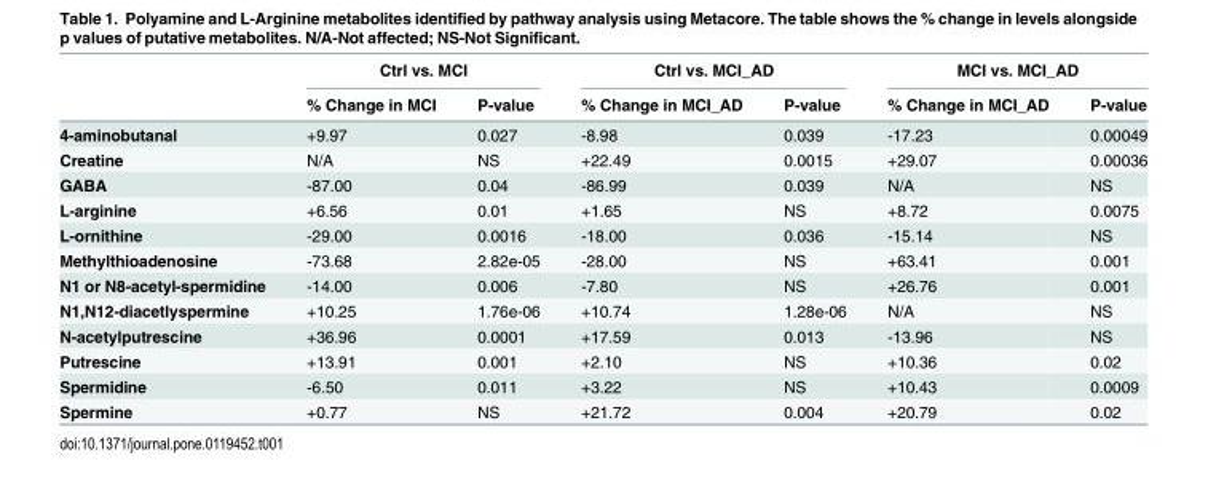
<table><thead><tr><td rowspan="2"></td><td colspan="2">Ctrl vs. MCI</td><td colspan="2">Ctrl vs. MCI_AD</td><td colspan="2">MCI vs. MCI_AD</td></tr><tr><td>% Change in MCI</td><td>P-value</td><td>% Change in MCI_AD</td><td>P-value</td><td>% Change in MCI_AD</td><td>P-value</td></tr></thead><tbody><tr><td>4-aminobutanal</td><td>+9.97</td><td>0.027</td><td>-8.98</td><td>0.039</td><td>-17.23</td><td>0.00049</td></tr><tr><td>Creatine</td><td>N/A</td><td>NS</td><td>+22.49</td><td>0.0015</td><td>+29.07</td><td>0.00036</td></tr><tr><td>GABA</td><td>-87.00</td><td>0.04</td><td>-86.99</td><td>0.039</td><td>N/A</td><td>NS</td></tr><tr><td>L-arginine</td><td>+6.56</td><td>0.01</td><td>+1.65</td><td>NS</td><td>+8.72</td><td>0.0075</td></tr><tr><td>L-ornithine</td><td>-29.00</td><td>0.0016</td><td>-18.00</td><td>0.036</td><td>-15.14</td><td>NS</td></tr><tr><td>Methylthioadenosine</td><td>-73.68</td><td>2.82e-05</td><td>-28.00</td><td>NS</td><td>+63.41</td><td>0.001</td></tr><tr><td>N1 or N8-acetyl-spermidine</td><td>-14.00</td><td>0.006</td><td>-7.80</td><td>NS</td><td>+26.76</td><td>0.001</td></tr><tr><td>N1,N12-diacetlyspermine</td><td>+10.25</td><td>1.76e-06</td><td>+10.74</td><td>1.28e-06</td><td>N/A</td><td>NS</td></tr><tr><td>N-acetylputrescine</td><td>+36.96</td><td>0.0001</td><td>+17.59</td><td>0.013</td><td>-13.96</td><td>NS</td></tr><tr><td>Putrescine</td><td>+13.91</td><td>0.001</td><td>+2.10</td><td>NS</td><td>+10.36</td><td>0.02</td></tr><tr><td>Spermidine</td><td>-6.50</td><td>0.011</td><td>+3.22</td><td>NS</td><td>+10.43</td><td>0.0009</td></tr><tr><td>Spermine</td><td>+0.77</td><td>NS</td><td>+21.72</td><td>0.004</td><td>+20.79</td><td>0.02</td></tr></tbody></table>